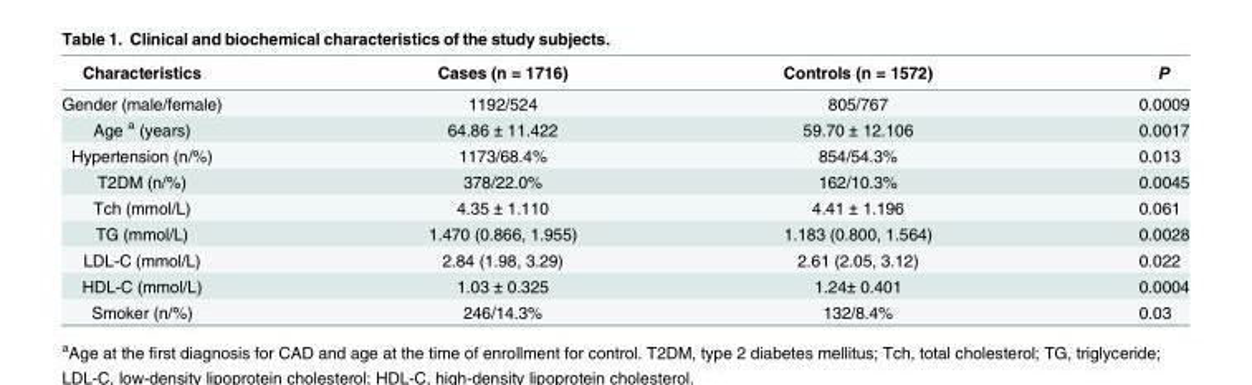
<table><thead><tr><td>Characteristics</td><td>Cases (n = 1716)</td><td>Controls (n = 1572)</td><td>P</td></tr></thead><tbody><tr><td>Gender (male/female)</td><td>1192/524</td><td>805/767</td><td>0.0009</td></tr><tr><td>Age <sup>a</sup> (years)</td><td>64.86 ± 11.422</td><td>59.70 ± 12.106</td><td>0.0017</td></tr><tr><td>Hypertension (n/%)</td><td>1173/68.4%</td><td>854/54.3%</td><td>0.013</td></tr><tr><td>T2DM (n/%)</td><td>378/22.0%</td><td>162/10.3%</td><td>0.0045</td></tr><tr><td>Tch (mmol/L)</td><td>4.35 ± 1.110</td><td>4.41 ± 1.196</td><td>0.061</td></tr><tr><td>TG (mmol/L)</td><td>1.470 (0.866, 1.955)</td><td>1.183 (0.800, 1.564)</td><td>0.0028</td></tr><tr><td>LDL-C (mmol/L)</td><td>2.84 (1.98, 3.29)</td><td>2.61 (2.05, 3.12)</td><td>0.022</td></tr><tr><td>HDL-C (mmol/L)</td><td>1.03 ± 0.325</td><td>1.24± 0.401</td><td>0.0004</td></tr><tr><td>Smoker (n/%)</td><td>246/14.3%</td><td>132/8.4%</td><td>0.03</td></tr></tbody></table>